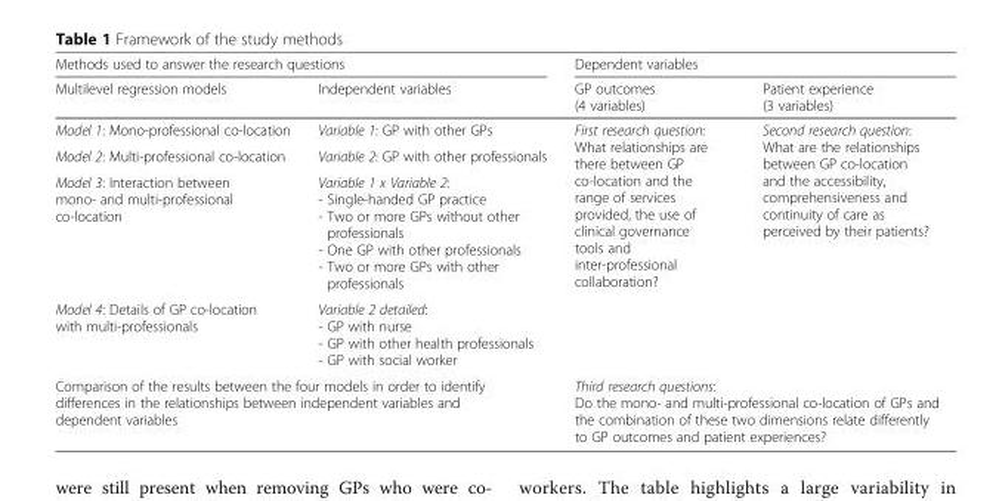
<table><thead><tr><td colspan="2">Methods used to answer the research questions</td><td colspan="2">Dependent variables</td></tr><tr><td>Multilevel regression models</td><td>Independent variables</td><td>GP outcomes (4 variables)</td><td>Patient experience (3 variables)</td></tr></thead><tbody><tr><td>Model 1: Mono-professional co-location</td><td>Variable 1: GP with other GPs</td><td rowspan="4">First research question: What relationships are there between GP co-location and the range of services provided, the use of clinical governance tools and inter-professional collaboration?</td><td rowspan="4">Second research question: What are the relationships between GP co-location and the accessibility, comprehensiveness and continuity of care as perceived by their patients?</td></tr><tr><td>Model 2: Multi-professional co-location</td><td>Variable 2: GP with other professionals</td></tr><tr><td>Model 3: Interaction between mono- and multi-professional co-location</td><td>Variable 1 x Variable 2: - Single-handed GP practice - Two or more GPs without other professionals - One GP with other professionals - Two or more GPs with other professionals</td></tr><tr><td>Model 4: Details of GP co-location with multi-professionals</td><td>Variable 2 detailed: - GP with nurse - GP with other health professionals - GP with social worker</td></tr><tr><td colspan="2">Comparison of the results between the four models in order to identify differences in the relationships between independent variables and dependent variables</td><td colspan="2">Third research questions: Do the mono- and multi-professional co-location of GPs and the combination of these two dimensions relate differently to GP outcomes and patient experiences?</td></tr></tbody></table>